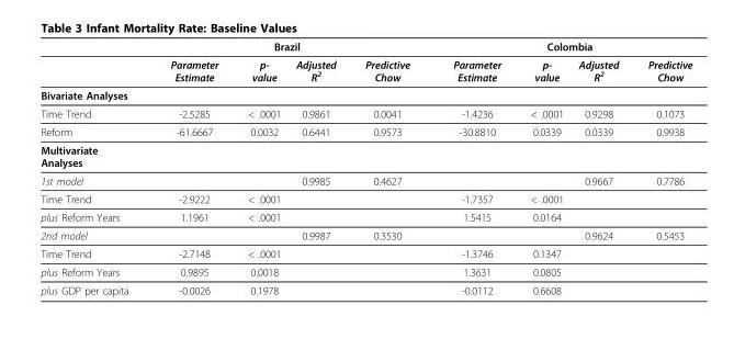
<table><thead><tr><td rowspan="2"></td><td colspan="4">Brazil</td><td colspan="4">Colombia</td></tr><tr><td>Parameter Estimate</td><td>p- value</td><td>Adjusted R2</td><td>Predictive Chow</td><td>Parameter Estimate</td><td>p- value</td><td>Adjusted R2</td><td>Predictive Chow</td></tr></thead><tbody><tr><td colspan="9">Bivariate Analyses</td></tr><tr><td>Time Trend</td><td>-2.5285</td><td>&lt; .0001</td><td>0.9861</td><td>0.0041</td><td>-1.4236</td><td>&lt; .0001</td><td>0.9298</td><td>0.1073</td></tr><tr><td>Reform</td><td>-61.6667</td><td>0.0032</td><td>0.6441</td><td>0.9573</td><td>-30.8810</td><td>0.0339</td><td>0.0339</td><td>0.9938</td></tr><tr><td colspan="9">Multivariate Analyses</td></tr><tr><td>1st model</td><td></td><td></td><td>0.9985</td><td>0.4627</td><td></td><td></td><td>0.9667</td><td>0.7786</td></tr><tr><td>Time Trend</td><td>-2.9222</td><td>&lt; .0001</td><td></td><td></td><td>-1.7357</td><td>&lt; .0001</td><td></td><td></td></tr><tr><td>plus Reform Years</td><td>1.1961</td><td>&lt; .0001</td><td></td><td></td><td>1.5415</td><td>0.0164</td><td></td><td></td></tr><tr><td>2nd model</td><td></td><td></td><td>0.9987</td><td>0.3530</td><td></td><td></td><td>0.9624</td><td>0.5453</td></tr><tr><td>Time Trend</td><td>-2.7148</td><td>&lt; .0001</td><td></td><td></td><td>-1.3746</td><td>0.1347</td><td></td><td></td></tr><tr><td>plus Reform Years</td><td>0.9895</td><td>0.0018</td><td></td><td></td><td>1.3631</td><td>0.0805</td><td></td><td></td></tr><tr><td>plus GDP per capita</td><td>-0.0026</td><td>0.1978</td><td></td><td></td><td>-0.0112</td><td>0.6608</td><td></td><td></td></tr></tbody></table>